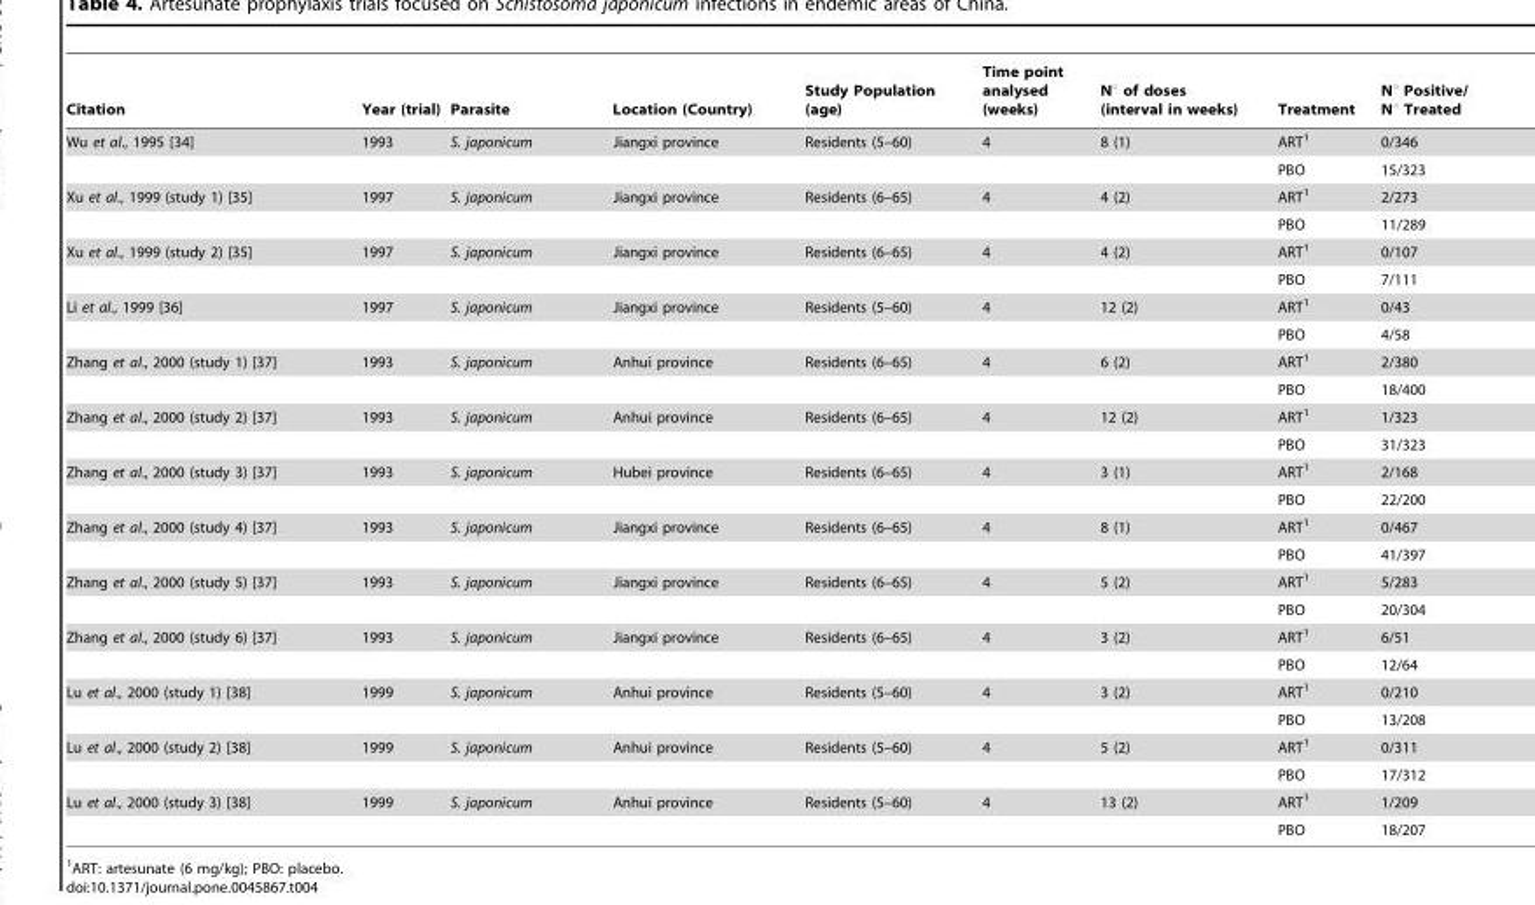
<table><thead><tr><td>Citation</td><td>Year (trial)</td><td>Parasite</td><td>Location (Country)</td><td>Study Population (age)</td><td>Time point analysed (weeks)</td><td>N° of doses (interval in weeks)</td><td>Treatment</td><td>N° Positive/ N° Treated</td></tr></thead><tbody><tr><td rowspan="2">Wu et al., 1995 [34]</td><td>1993</td><td>S. japonicum</td><td>Jiangxi province</td><td>Residents (5–60)</td><td>4</td><td>8 (1)</td><td>ART<sup>1</sup></td><td>0/346</td></tr><tr><td></td><td></td><td></td><td></td><td></td><td></td><td>PBO</td><td>15/323</td></tr><tr><td rowspan="2">Xu et al., 1999 (study 1) [35]</td><td>1997</td><td>S. japonicum</td><td>Jiangxi province</td><td>Residents (6–65)</td><td>4</td><td>4 (2)</td><td>ART<sup>1</sup></td><td>2/273</td></tr><tr><td></td><td></td><td></td><td></td><td></td><td></td><td>PBO</td><td>11/289</td></tr><tr><td rowspan="2">Xu et al., 1999 (study 2) [35]</td><td>1997</td><td>S. japonicum</td><td>Jiangxi province</td><td>Residents (6–65)</td><td>4</td><td>4 (2)</td><td>ART<sup>1</sup></td><td>0/107</td></tr><tr><td></td><td></td><td></td><td></td><td></td><td></td><td>PBO</td><td>7/111</td></tr><tr><td rowspan="2">Li et al., 1999 [36]</td><td>1997</td><td>S. japonicum</td><td>Jiangxi province</td><td>Residents (5–60)</td><td>4</td><td>12 (2)</td><td>ART<sup>1</sup></td><td>0/43</td></tr><tr><td></td><td></td><td></td><td></td><td></td><td></td><td>PBO</td><td>4/58</td></tr><tr><td rowspan="2">Zhang et al., 2000 (study 1) [37]</td><td>1993</td><td>S. japonicum</td><td>Anhui province</td><td>Residents (6–65)</td><td>4</td><td>6 (2)</td><td>ART<sup>1</sup></td><td>2/380</td></tr><tr><td></td><td></td><td></td><td></td><td></td><td></td><td>PBO</td><td>18/400</td></tr><tr><td rowspan="2">Zhang et al., 2000 (study 2) [37]</td><td>1993</td><td>S. japonicum</td><td>Anhui province</td><td>Residents (6–65)</td><td>4</td><td>12 (2)</td><td>ART<sup>1</sup></td><td>1/323</td></tr><tr><td></td><td></td><td></td><td></td><td></td><td></td><td>PBO</td><td>31/323</td></tr><tr><td rowspan="2">Zhang et al., 2000 (study 3) [37]</td><td>1993</td><td>S. japonicum</td><td>Hubei province</td><td>Residents (6–65)</td><td>4</td><td>3 (1)</td><td>ART<sup>1</sup></td><td>2/168</td></tr><tr><td></td><td></td><td></td><td></td><td></td><td></td><td>PBO</td><td>22/200</td></tr><tr><td rowspan="2">Zhang et al., 2000 (study 4) [37]</td><td>1993</td><td>S. japonicum</td><td>Jiangxi province</td><td>Residents (6–65)</td><td>4</td><td>8 (1)</td><td>ART<sup>1</sup></td><td>0/467</td></tr><tr><td></td><td></td><td></td><td></td><td></td><td></td><td>PBO</td><td>41/397</td></tr><tr><td rowspan="2">Zhang et al., 2000 (study 5) [37]</td><td>1993</td><td>S. japonicum</td><td>Jiangxi province</td><td>Residents (6–65)</td><td>4</td><td>5 (2)</td><td>ART<sup>1</sup></td><td>5/283</td></tr><tr><td></td><td></td><td></td><td></td><td></td><td></td><td>PBO</td><td>20/304</td></tr><tr><td rowspan="2">Zhang et al., 2000 (study 6) [37]</td><td>1993</td><td>S. japonicum</td><td>Jiangxi province</td><td>Residents (6–65)</td><td>4</td><td>3 (2)</td><td>ART<sup>1</sup></td><td>6/51</td></tr><tr><td></td><td></td><td></td><td></td><td></td><td></td><td>PBO</td><td>12/64</td></tr><tr><td rowspan="2">Lu et al., 2000 (study 1) [38]</td><td>1999</td><td>S. japonicum</td><td>Anhui province</td><td>Residents (5–60)</td><td>4</td><td>3 (2)</td><td>ART<sup>1</sup></td><td>0/210</td></tr><tr><td></td><td></td><td></td><td></td><td></td><td></td><td>PBO</td><td>13/208</td></tr><tr><td rowspan="2">Lu et al., 2000 (study 2) [38]</td><td>1999</td><td>S. japonicum</td><td>Anhui province</td><td>Residents (5–60)</td><td>4</td><td>5 (2)</td><td>ART<sup>1</sup></td><td>0/311</td></tr><tr><td></td><td></td><td></td><td></td><td></td><td></td><td>PBO</td><td>17/312</td></tr><tr><td rowspan="2">Lu et al., 2000 (study 3) [38]</td><td>1999</td><td>S. japonicum</td><td>Anhui province</td><td>Residents (5–60)</td><td>4</td><td>13 (2)</td><td>ART<sup>1</sup></td><td>1/209</td></tr><tr><td></td><td></td><td></td><td></td><td></td><td></td><td>PBO</td><td>18/207</td></tr></tbody></table>